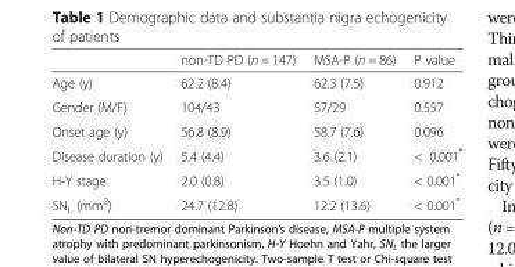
<table><thead><tr><td></td><td>non-TD PD (n = 147)</td><td>MSA-P (n = 86)</td><td>P value</td></tr></thead><tbody><tr><td>Age (y)</td><td>62.2 (8.4)</td><td>62.3 (7.5)</td><td>0.912</td></tr><tr><td>Gender (M/F)</td><td>104/43</td><td>57/29</td><td>0.557</td></tr><tr><td>Onset age (y)</td><td>56.8 (8.9)</td><td>58.7 (7.6)</td><td>0.096</td></tr><tr><td>Disease duration (y)</td><td>5.4 (4.4)</td><td>3.6 (2.1)</td><td>&lt; 0.001*</td></tr><tr><td>H-Y stage</td><td>2.0 (0.8)</td><td>3.5 (1.0)</td><td>&lt; 0.001*</td></tr><tr><td>SN<sub>L</sub> (mm<sup>2</sup>)</td><td>24.7 (12.8)</td><td>12.2 (13.6)</td><td>&lt; 0.001*</td></tr></tbody></table>